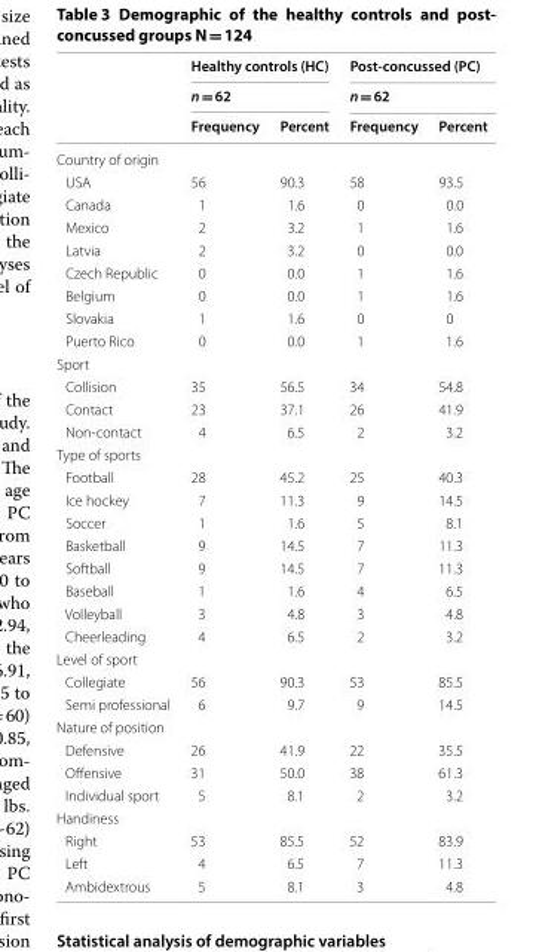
<table><thead><tr><td rowspan="3"></td><td rowspan="2" colspan="2">Healthy controls (HC) n = 62</td><td rowspan="2" colspan="2">Post-concussed (PC) n = 62</td></tr><tr></tr><tr><td>Frequency</td><td>Percent</td><td>Frequency</td><td>Percent</td></tr></thead><tbody><tr><td colspan="5">Country of origin</td></tr><tr><td>USA</td><td>56</td><td>90.3</td><td>58</td><td>93.5</td></tr><tr><td>Canada</td><td>1</td><td>1.6</td><td>0</td><td>0.0</td></tr><tr><td>Mexico</td><td>2</td><td>3.2</td><td>1</td><td>1.6</td></tr><tr><td>Latvia</td><td>2</td><td>3.2</td><td>0</td><td>0.0</td></tr><tr><td>Czech Republic</td><td>0</td><td>0.0</td><td>1</td><td>1.6</td></tr><tr><td>Belgium</td><td>0</td><td>0.0</td><td>1</td><td>1.6</td></tr><tr><td>Slovakia</td><td>1</td><td>1.6</td><td>0</td><td>0</td></tr><tr><td>Puerto Rico</td><td>0</td><td>0.0</td><td>1</td><td>1.6</td></tr><tr><td colspan="5">Sport</td></tr><tr><td>Collision</td><td>35</td><td>56.5</td><td>34</td><td>54.8</td></tr><tr><td>Contact</td><td>23</td><td>37.1</td><td>26</td><td>41.9</td></tr><tr><td>Non-contact</td><td>4</td><td>6.5</td><td>2</td><td>3.2</td></tr><tr><td colspan="5">Type of sports</td></tr><tr><td>Football</td><td>28</td><td>45.2</td><td>25</td><td>40.3</td></tr><tr><td>Ice hockey</td><td>7</td><td>11.3</td><td>9</td><td>14.5</td></tr><tr><td>Soccer</td><td>1</td><td>1.6</td><td>5</td><td>8.1</td></tr><tr><td>Basketball</td><td>9</td><td>14.5</td><td>7</td><td>11.3</td></tr><tr><td>Softball</td><td>9</td><td>14.5</td><td>7</td><td>11.3</td></tr><tr><td>Baseball</td><td>1</td><td>1.6</td><td>4</td><td>6.5</td></tr><tr><td>Volleyball</td><td>3</td><td>4.8</td><td>3</td><td>4.8</td></tr><tr><td>Cheerleading</td><td>4</td><td>6.5</td><td>2</td><td>3.2</td></tr><tr><td colspan="5">Level of sport</td></tr><tr><td>Collegiate</td><td>56</td><td>90.3</td><td>53</td><td>85.5</td></tr><tr><td>Semi professional</td><td>6</td><td>9.7</td><td>9</td><td>14.5</td></tr><tr><td colspan="5">Nature of position</td></tr><tr><td>Defensive</td><td>26</td><td>41.9</td><td>22</td><td>35.5</td></tr><tr><td>Offensive</td><td>31</td><td>50.0</td><td>38</td><td>61.3</td></tr><tr><td>Individual sport</td><td>5</td><td>8.1</td><td>2</td><td>3.2</td></tr><tr><td colspan="5">Handiness</td></tr><tr><td>Right</td><td>53</td><td>85.5</td><td>52</td><td>83.9</td></tr><tr><td>Left</td><td>4</td><td>6.5</td><td>7</td><td>11.3</td></tr><tr><td>Ambidextrous</td><td>5</td><td>8.1</td><td>3</td><td>4.8</td></tr></tbody></table>